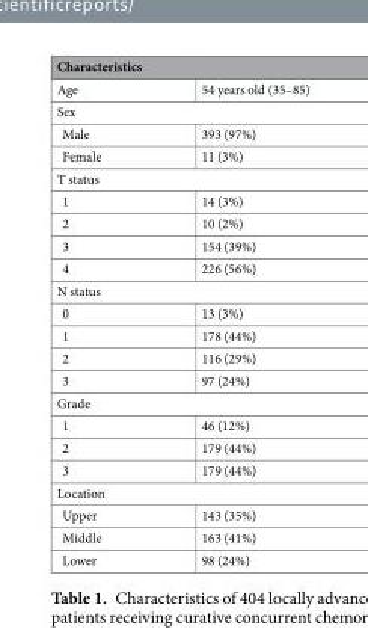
<table><thead><tr><td colspan="2">Characteristics</td></tr><tr><td>Age</td><td>54 years old (35–85)</td></tr></thead><tbody><tr><td colspan="2">Sex</td></tr><tr><td>Male</td><td>393 (97%)</td></tr><tr><td>Female</td><td>11 (3%)</td></tr><tr><td colspan="2">T status</td></tr><tr><td>1</td><td>14 (3%)</td></tr><tr><td>2</td><td>10 (2%)</td></tr><tr><td>3</td><td>154 (39%)</td></tr><tr><td>4</td><td>226 (56%)</td></tr><tr><td colspan="2">N status</td></tr><tr><td>0</td><td>13 (3%)</td></tr><tr><td>1</td><td>178 (44%)</td></tr><tr><td>2</td><td>116 (29%)</td></tr><tr><td>3</td><td>97 (24%)</td></tr><tr><td colspan="2">Grade</td></tr><tr><td>1</td><td>46 (12%)</td></tr><tr><td>2</td><td>179 (44%)</td></tr><tr><td>3</td><td>179 (44%)</td></tr><tr><td colspan="2">Location</td></tr><tr><td>Upper</td><td>143 (35%)</td></tr><tr><td>Middle</td><td>163 (41%)</td></tr><tr><td>Lower</td><td>98 (24%)</td></tr></tbody></table>